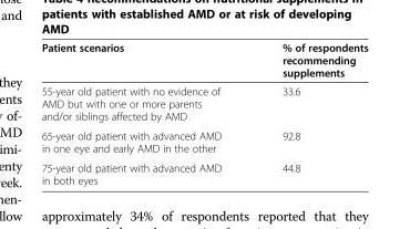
<table><thead><tr><td>Patient scenarios</td><td>% of respondents recommending supplements</td></tr></thead><tbody><tr><td>55-year old patient with no evidence of AMD but with one or more parents and/or siblings affected by AMD</td><td>33.6</td></tr><tr><td>65-year old patient with advanced AMD in one eye and early AMD in the other</td><td>92.8</td></tr><tr><td>75-year old patient with advanced AMD in both eyes</td><td>44.8</td></tr></tbody></table>